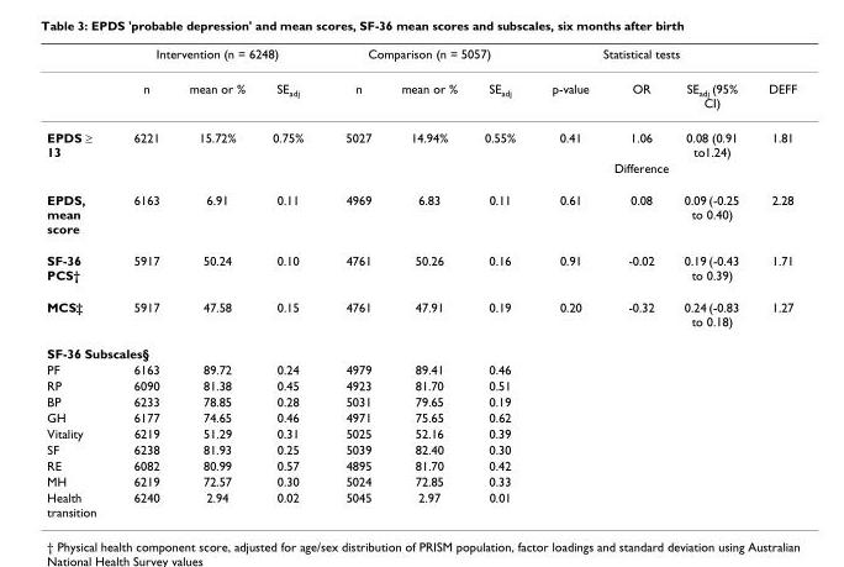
<table><thead><tr><td rowspan="2"></td><td colspan="3">Intervention (n = 6248)</td><td colspan="3">Comparison (n = 5057)</td><td colspan="3">Statistical tests</td><td rowspan="2">DEFF</td></tr><tr><td>n</td><td>mean or %</td><td>SEadj</td><td>n</td><td>mean or %</td><td>SEadj</td><td>p-value</td><td>OR</td><td>SEadj (95% CI)</td></tr></thead><tbody><tr><td rowspan="2">EPDS ≥ 13</td><td>6221</td><td>15.72%</td><td>0.75%</td><td>5027</td><td>14.94%</td><td>0.55%</td><td>0.41</td><td>1.06</td><td>0.08 (0.91 to1.24)</td><td>1.81</td></tr><tr><td></td><td></td><td></td><td></td><td></td><td></td><td></td><td>Difference</td><td></td><td></td></tr><tr><td>EPDS, mean score</td><td>6163</td><td>6.91</td><td>0.11</td><td>4969</td><td>6.83</td><td>0.11</td><td>0.61</td><td>0.08</td><td>0.09 (-0.25 to 0.40)</td><td>2.28</td></tr><tr><td>SF-36 PCS†</td><td>5917</td><td>50.24</td><td>0.10</td><td>4761</td><td>50.26</td><td>0.16</td><td>0.91</td><td>-0.02</td><td>0.19 (-0.43 to 0.39)</td><td>1.71</td></tr><tr><td>MCS‡</td><td>5917</td><td>47.58</td><td>0.15</td><td>4761</td><td>47.91</td><td>0.19</td><td>0.20</td><td>-0.32</td><td>0.24 (-0.83 to 0.18)</td><td>1.27</td></tr><tr><td colspan="11">SF-36 Subscales§</td></tr><tr><td>PF</td><td>6163</td><td>89.72</td><td>0.24</td><td>4979</td><td>89.41</td><td>0.46</td><td></td><td></td><td></td><td></td></tr><tr><td>RP</td><td>6090</td><td>81.38</td><td>0.45</td><td>4923</td><td>81.70</td><td>0.51</td><td></td><td></td><td></td><td></td></tr><tr><td>BP</td><td>6233</td><td>78.85</td><td>0.28</td><td>5031</td><td>79.65</td><td>0.19</td><td></td><td></td><td></td><td></td></tr><tr><td>GH</td><td>6177</td><td>74.65</td><td>0.46</td><td>4971</td><td>75.65</td><td>0.62</td><td></td><td></td><td></td><td></td></tr><tr><td>Vitality</td><td>6219</td><td>51.29</td><td>0.31</td><td>5025</td><td>52.16</td><td>0.39</td><td></td><td></td><td></td><td></td></tr><tr><td>SF</td><td>6238</td><td>81.93</td><td>0.25</td><td>5039</td><td>82.40</td><td>0.30</td><td></td><td></td><td></td><td></td></tr><tr><td>RE</td><td>6082</td><td>80.99</td><td>0.57</td><td>4895</td><td>81.70</td><td>0.42</td><td></td><td></td><td></td><td></td></tr><tr><td>MH</td><td>6219</td><td>72.57</td><td>0.30</td><td>5024</td><td>72.85</td><td>0.33</td><td></td><td></td><td></td><td></td></tr><tr><td>Health transition</td><td>6240</td><td>2.94</td><td>0.02</td><td>5045</td><td>2.97</td><td>0.01</td><td></td><td></td><td></td><td></td></tr></tbody></table>